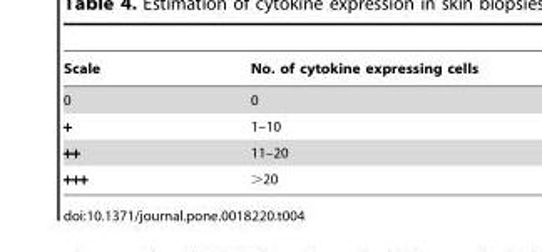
<table><thead><tr><td>Scale</td><td>No. of cytokine expressing cells</td></tr></thead><tbody><tr><td>0</td><td>0</td></tr><tr><td>+</td><td>1–10</td></tr><tr><td>++</td><td>11–20</td></tr><tr><td>+++</td><td>&gt;20</td></tr></tbody></table>